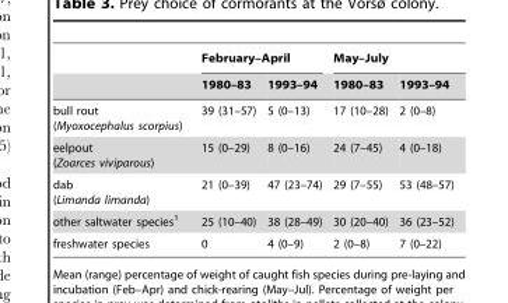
<table><thead><tr><td rowspan="2"></td><td colspan="2">February–April</td><td colspan="2">May–July</td></tr><tr><td>1980–83</td><td>1993–94</td><td>1980–83</td><td>1993–94</td></tr></thead><tbody><tr><td>bull rout (Myoxocephalus scorpius)</td><td>39 (31–57)</td><td>5 (0–13)</td><td>17 (10–28)</td><td>2 (0–8)</td></tr><tr><td>eelpout (Zoarces viviparous)</td><td>15 (0–29)</td><td>8 (0–16)</td><td>24 (7–45)</td><td>4 (0–18)</td></tr><tr><td>dab (Limanda limanda)</td><td>21 (0–39)</td><td>47 (23–74)</td><td>29 (7–55)</td><td>53 (48–57)</td></tr><tr><td>other saltwater species<sup>1</sup></td><td>25 (10–40)</td><td>38 (28–49)</td><td>30 (20–40)</td><td>36 (23–52)</td></tr><tr><td>freshwater species</td><td>0</td><td>4 (0–9)</td><td>2 (0–8)</td><td>7 (0–22)</td></tr></tbody></table>